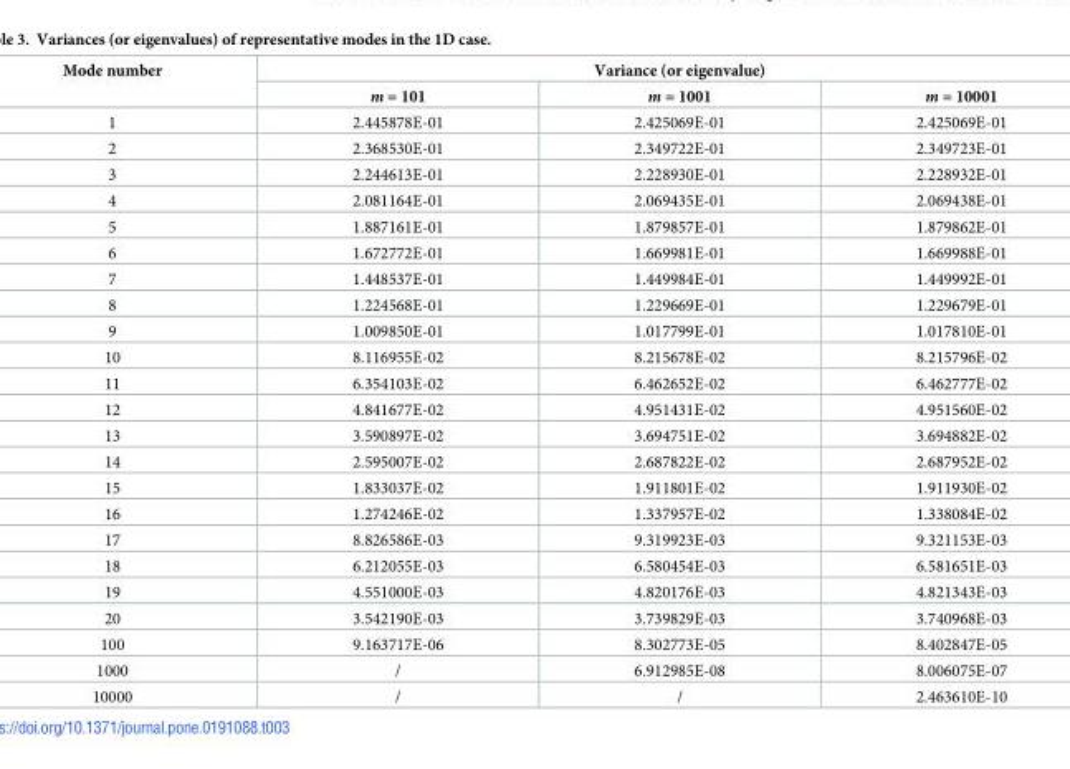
<table><thead><tr><td rowspan="2">Mode number</td><td colspan="3">Variance (or eigenvalue)</td></tr><tr><td>m = 101</td><td>m = 1001</td><td>m = 10001</td></tr></thead><tbody><tr><td>1</td><td>2.445878E-01</td><td>2.425069E-01</td><td>2.425069E-01</td></tr><tr><td>2</td><td>2.368530E-01</td><td>2.349722E-01</td><td>2.349723E-01</td></tr><tr><td>3</td><td>2.244613E-01</td><td>2.228930E-01</td><td>2.228932E-01</td></tr><tr><td>4</td><td>2.081164E-01</td><td>2.069435E-01</td><td>2.069438E-01</td></tr><tr><td>5</td><td>1.887161E-01</td><td>1.879857E-01</td><td>1.879862E-01</td></tr><tr><td>6</td><td>1.672772E-01</td><td>1.669981E-01</td><td>1.669988E-01</td></tr><tr><td>7</td><td>1.448537E-01</td><td>1.449984E-01</td><td>1.449992E-01</td></tr><tr><td>8</td><td>1.224568E-01</td><td>1.229669E-01</td><td>1.229679E-01</td></tr><tr><td>9</td><td>1.009850E-01</td><td>1.017799E-01</td><td>1.017810E-01</td></tr><tr><td>10</td><td>8.116955E-02</td><td>8.215678E-02</td><td>8.215796E-02</td></tr><tr><td>11</td><td>6.354103E-02</td><td>6.462652E-02</td><td>6.462777E-02</td></tr><tr><td>12</td><td>4.841677E-02</td><td>4.951431E-02</td><td>4.951560E-02</td></tr><tr><td>13</td><td>3.590897E-02</td><td>3.694751E-02</td><td>3.694882E-02</td></tr><tr><td>14</td><td>2.595007E-02</td><td>2.687822E-02</td><td>2.687952E-02</td></tr><tr><td>15</td><td>1.833037E-02</td><td>1.911801E-02</td><td>1.911930E-02</td></tr><tr><td>16</td><td>1.274246E-02</td><td>1.337957E-02</td><td>1.338084E-02</td></tr><tr><td>17</td><td>8.826586E-03</td><td>9.319923E-03</td><td>9.321153E-03</td></tr><tr><td>18</td><td>6.212055E-03</td><td>6.580454E-03</td><td>6.581651E-03</td></tr><tr><td>19</td><td>4.551000E-03</td><td>4.820176E-03</td><td>4.821343E-03</td></tr><tr><td>20</td><td>3.542190E-03</td><td>3.739829E-03</td><td>3.740968E-03</td></tr><tr><td>100</td><td>9.163717E-06</td><td>8.302773E-05</td><td>8.402847E-05</td></tr><tr><td>1000</td><td>/</td><td>6.912985E-08</td><td>8.006075E-07</td></tr><tr><td>10000</td><td>/</td><td>/</td><td>2.463610E-10</td></tr></tbody></table>